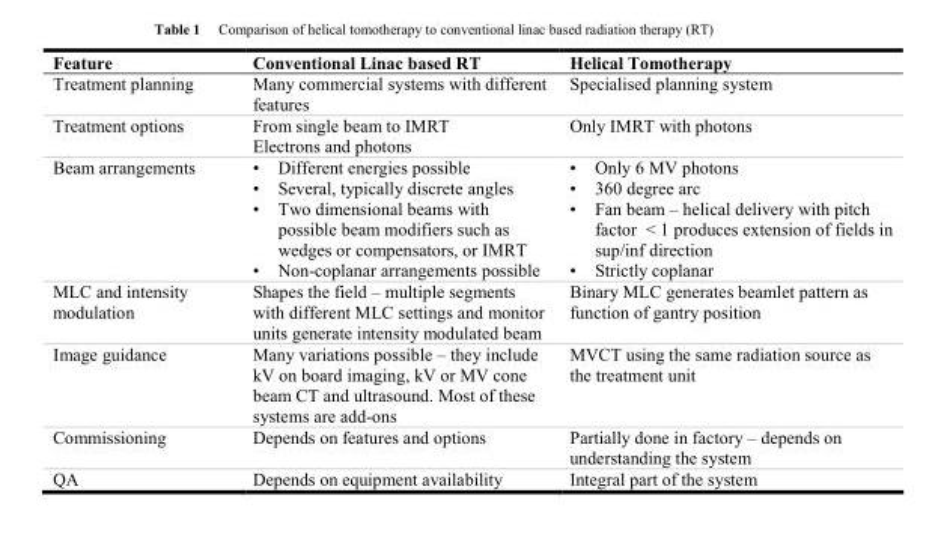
<table><thead><tr><td>Feature</td><td>Conventional Linac based RT</td><td>Helical Tomotherapy</td></tr></thead><tbody><tr><td>Treatment planning</td><td>Many commercial systems with different features</td><td>Specialised planning system</td></tr><tr><td>Treatment options</td><td>From single beam to IMRT Electrons and photons</td><td>Only IMRT with photons</td></tr><tr><td>Beam arrangements</td><td>• Different energies possible • Several, typically discrete angles • Two dimensional beams with possible beam modifiers such as wedges or compensators, or IMRT • Non-coplanar arrangements possible</td><td>• Only 6 MV photons • 360 degree arc • Fan beam – helical delivery with pitch factor &lt; 1 produces extension of fields in sup/inf direction • Strictly coplanar</td></tr><tr><td>MLC and intensity modulation</td><td>Shapes the field – multiple segments with different MLC settings and monitor units generate intensity modulated beam</td><td>Binary MLC generates beamlet pattern as function of gantry position</td></tr><tr><td>Image guidance</td><td>Many variations possible – they include kV on board imaging, kV or MV cone beam CT and ultrasound. Most of these systems are add-ons</td><td>MVCT using the same radiation source as the treatment unit</td></tr><tr><td>Commissioning</td><td>Depends on features and options</td><td>Partially done in factory – depends on understanding the system</td></tr><tr><td>QA</td><td>Depends on equipment availability</td><td>Integral part of the system</td></tr></tbody></table>